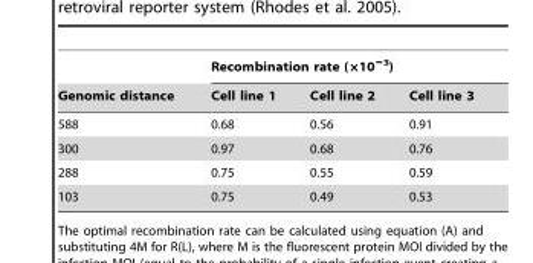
<table><thead><tr><td rowspan="2">Genomic distance</td><td colspan="3">Recombination rate (×10<sup>−3</sup>)</td></tr><tr><td>Cell line 1</td><td>Cell line 2</td><td>Cell line 3</td></tr></thead><tbody><tr><td>588</td><td>0.68</td><td>0.56</td><td>0.91</td></tr><tr><td>300</td><td>0.97</td><td>0.68</td><td>0.76</td></tr><tr><td>288</td><td>0.75</td><td>0.55</td><td>0.59</td></tr><tr><td>103</td><td>0.75</td><td>0.49</td><td>0.53</td></tr></tbody></table>